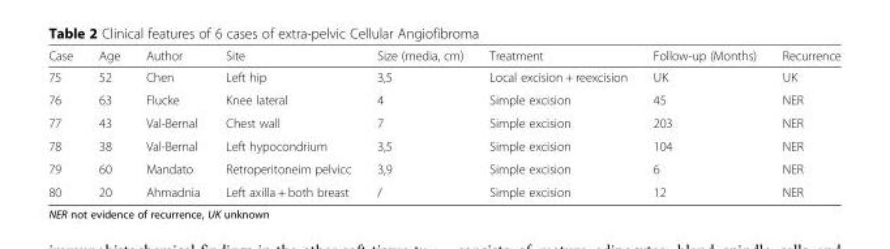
<table><thead><tr><td>Case</td><td>Age</td><td>Author</td><td>Site</td><td>Size (media, cm)</td><td>Treatment</td><td>Follow-up (Months)</td><td>Recurrence</td></tr></thead><tbody><tr><td>75</td><td>52</td><td>Chen</td><td>Left hip</td><td>3,5</td><td>Local excision + reexcision</td><td>UK</td><td>UK</td></tr><tr><td>76</td><td>63</td><td>Flucke</td><td>Knee lateral</td><td>4</td><td>Simple excision</td><td>45</td><td>NER</td></tr><tr><td>77</td><td>43</td><td>Val-Bernal</td><td>Chest wall</td><td>7</td><td>Simple excision</td><td>203</td><td>NER</td></tr><tr><td>78</td><td>38</td><td>Val-Bernal</td><td>Left hypocondrium</td><td>3,5</td><td>Simple excision</td><td>104</td><td>NER</td></tr><tr><td>79</td><td>60</td><td>Mandato</td><td>Retroperitoneim pelvicc</td><td>3,9</td><td>Simple excision</td><td>6</td><td>NER</td></tr><tr><td>80</td><td>20</td><td>Ahmadnia</td><td>Left axilla + both breast</td><td>/</td><td>Simple excision</td><td>12</td><td>NER</td></tr></tbody></table>